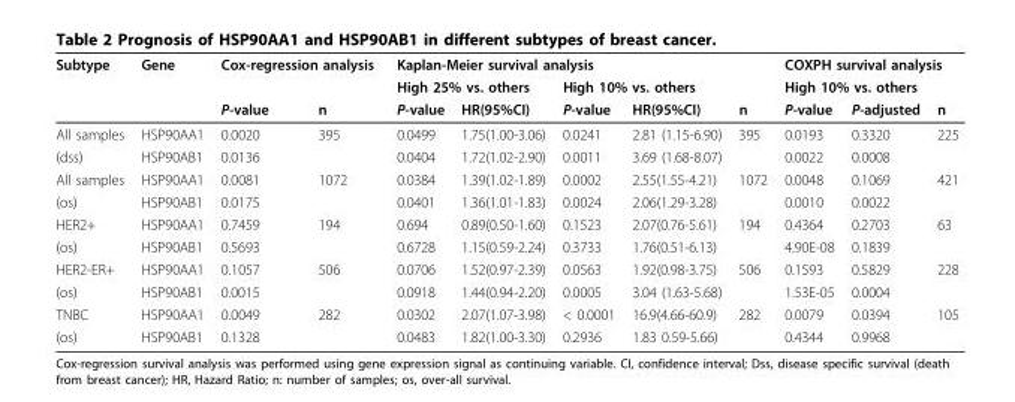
<table><thead><tr><td rowspan="3">Subtype</td><td rowspan="3">Gene</td><td colspan="2">Cox-regression analysis</td><td colspan="5">Kaplan-Meier survival analysis</td><td rowspan="2" colspan="3">COXPH survival analysis High 10% vs. others</td></tr><tr><td rowspan="2">P-value</td><td rowspan="2">n</td><td colspan="2">High 25% vs. others</td><td colspan="2">High 10% vs. others</td><td rowspan="2">n</td></tr><tr><td>P-value</td><td>HR(95%CI)</td><td>P-value</td><td>HR(95%CI)</td><td>P-value</td><td>P-adjusted</td><td>n</td></tr></thead><tbody><tr><td>All samples</td><td>HSP90AA1</td><td>0.0020</td><td>395</td><td>0.0499</td><td>1.75(1.00-3.06)</td><td>0.0241</td><td>2.81 (1.15-6.90)</td><td>395</td><td>0.0193</td><td>0.3320</td><td>225</td></tr><tr><td>(dss)</td><td>HSP90AB1</td><td>0.0136</td><td></td><td>0.0404</td><td>1.72(1.02-2.90)</td><td>0.0011</td><td>3.69 (1.68-8.07)</td><td></td><td>0.0022</td><td>0.0008</td><td></td></tr><tr><td>All samples</td><td>HSP90AA1</td><td>0.0081</td><td>1072</td><td>0.0384</td><td>1.39(1.02-1.89)</td><td>0.0002</td><td>2.55(1.55-4.21)</td><td>1072</td><td>0.0048</td><td>0.1069</td><td>421</td></tr><tr><td>(os)</td><td>HSP90AB1</td><td>0.0175</td><td></td><td>0.0401</td><td>1.36(1.01-1.83)</td><td>0.0024</td><td>2.06(1.29-3.28)</td><td></td><td>0.0010</td><td>0.0022</td><td></td></tr><tr><td>HER2+</td><td>HSP90AA1</td><td>0.7459</td><td>194</td><td>0.694</td><td>0.89(0.50-1.60)</td><td>0.1523</td><td>2.07(0.76-5.61)</td><td>194</td><td>0.4364</td><td>0.2703</td><td>63</td></tr><tr><td>(os)</td><td>HSP90AB1</td><td>0.5693</td><td></td><td>0.6728</td><td>1.15(0.59-2.24)</td><td>0.3733</td><td>1.76(0.51-6.13)</td><td></td><td>4.90E-08</td><td>0.1839</td><td></td></tr><tr><td>HER2-ER+</td><td>HSP90AA1</td><td>0.1057</td><td>506</td><td>0.0706</td><td>1.52(0.97-2.39)</td><td>0.0563</td><td>1.92(0.98-3.75)</td><td>506</td><td>0.1593</td><td>0.5829</td><td>228</td></tr><tr><td>(os)</td><td>HSP90AB1</td><td>0.0015</td><td></td><td>0.0918</td><td>1.44(0.94-2.20)</td><td>0.0005</td><td>3.04 (1.63-5.68)</td><td></td><td>1.53E-05</td><td>0.0004</td><td></td></tr><tr><td>TNBC</td><td>HSP90AA1</td><td>0.0049</td><td>282</td><td>0.0302</td><td>2.07(1.07-3.98)</td><td>&lt; 0.0001</td><td>16.9(4.66-60.9)</td><td>282</td><td>0.0079</td><td>0.0394</td><td>105</td></tr><tr><td>(os)</td><td>HSP90AB1</td><td>0.1328</td><td></td><td>0.0483</td><td>1.82(1.00-3.30)</td><td>0.2936</td><td>1.83 0.59-5.66)</td><td></td><td>0.4344</td><td>0.9968</td><td></td></tr></tbody></table>